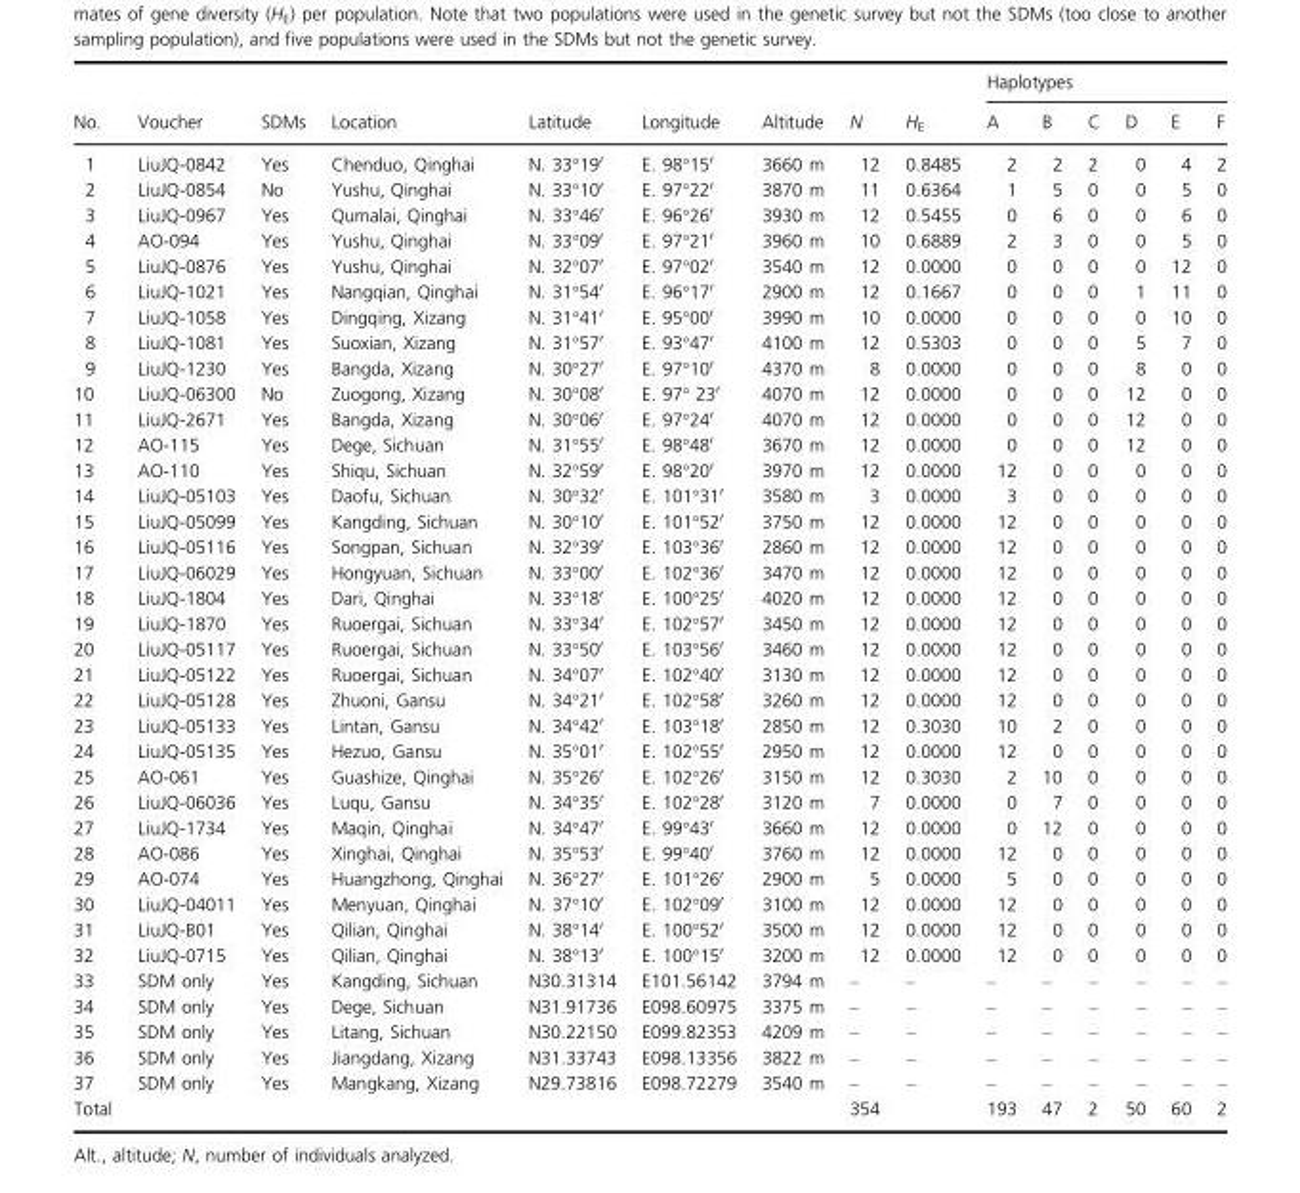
<table><thead><tr><td rowspan="2">No.</td><td rowspan="2">Voucher</td><td rowspan="2">SDMs</td><td rowspan="2">Location</td><td rowspan="2">Latitude</td><td rowspan="2">Longitude</td><td rowspan="2">Altitude</td><td rowspan="2">N</td><td rowspan="2">H<sub>E</sub></td><td colspan="6">Haplotypes</td></tr><tr><td>A</td><td>B</td><td>C</td><td>D</td><td>E</td><td>F</td></tr></thead><tbody><tr><td>1</td><td>LiuJQ-0842</td><td>Yes</td><td>Chenduo, Qinghai</td><td>N. 33°19′</td><td>E. 98°15′</td><td>3660 m</td><td>12</td><td>0.8485</td><td>2</td><td>2</td><td>2</td><td>0</td><td>4</td><td>2</td></tr><tr><td>2</td><td>LiuJQ-0854</td><td>No</td><td>Yushu, Qinghai</td><td>N. 33°10′</td><td>E. 97°22′</td><td>3870 m</td><td>11</td><td>0.6364</td><td>1</td><td>5</td><td>0</td><td>0</td><td>5</td><td>0</td></tr><tr><td>3</td><td>LiuJQ-0967</td><td>Yes</td><td>Qumalai, Qinghai</td><td>N. 33°46′</td><td>E. 96°26′</td><td>3930 m</td><td>12</td><td>0.5455</td><td>0</td><td>6</td><td>0</td><td>0</td><td>6</td><td>0</td></tr><tr><td>4</td><td>AO-094</td><td>Yes</td><td>Yushu, Qinghai</td><td>N. 33°09′</td><td>E. 97°21′</td><td>3960 m</td><td>10</td><td>0.6889</td><td>2</td><td>3</td><td>0</td><td>0</td><td>5</td><td>0</td></tr><tr><td>5</td><td>LiuJQ-0876</td><td>Yes</td><td>Yushu, Qinghai</td><td>N. 32°07′</td><td>E. 97°02′</td><td>3540 m</td><td>12</td><td>0.0000</td><td>0</td><td>0</td><td>0</td><td>0</td><td>12</td><td>0</td></tr><tr><td>6</td><td>LiuJQ-1021</td><td>Yes</td><td>Nangqian, Qinghai</td><td>N. 31°54′</td><td>E. 96°17′</td><td>2900 m</td><td>12</td><td>0.1667</td><td>0</td><td>0</td><td>0</td><td>1</td><td>11</td><td>0</td></tr><tr><td>7</td><td>LiuJQ-1058</td><td>Yes</td><td>Dingqing, Xizang</td><td>N. 31°41′</td><td>E. 95°00′</td><td>3990 m</td><td>10</td><td>0.0000</td><td>0</td><td>0</td><td>0</td><td>0</td><td>10</td><td>0</td></tr><tr><td>8</td><td>LiuJQ-1081</td><td>Yes</td><td>Suoxian, Xizang</td><td>N. 31°57′</td><td>E. 93°47′</td><td>4100 m</td><td>12</td><td>0.5303</td><td>0</td><td>0</td><td>0</td><td>5</td><td>7</td><td>0</td></tr><tr><td>9</td><td>LiuJQ-1230</td><td>Yes</td><td>Bangda, Xizang</td><td>N. 30°27′</td><td>E. 97°10′</td><td>4370 m</td><td>8</td><td>0.0000</td><td>0</td><td>0</td><td>0</td><td>8</td><td>0</td><td>0</td></tr><tr><td>10</td><td>LiuJQ-06300</td><td>No</td><td>Zuogong, Xizang</td><td>N. 30°08′</td><td>E. 97° 23′</td><td>4070 m</td><td>12</td><td>0.0000</td><td>0</td><td>0</td><td>0</td><td>12</td><td>0</td><td>0</td></tr><tr><td>11</td><td>LiuJQ-2671</td><td>Yes</td><td>Bangda, Xizang</td><td>N. 30°06′</td><td>E. 97°24′</td><td>4070 m</td><td>12</td><td>0.0000</td><td>0</td><td>0</td><td>0</td><td>12</td><td>0</td><td>0</td></tr><tr><td>12</td><td>AO-115</td><td>Yes</td><td>Dege, Sichuan</td><td>N. 31°55′</td><td>E. 98°48′</td><td>3670 m</td><td>12</td><td>0.0000</td><td>0</td><td>0</td><td>0</td><td>12</td><td>0</td><td>0</td></tr><tr><td>13</td><td>AO-110</td><td>Yes</td><td>Shiqu, Sichuan</td><td>N. 32°59′</td><td>E. 98°20′</td><td>3970 m</td><td>12</td><td>0.0000</td><td>12</td><td>0</td><td>0</td><td>0</td><td>0</td><td>0</td></tr><tr><td>14</td><td>LiuJQ-05103</td><td>Yes</td><td>Daofu, Sichuan</td><td>N. 30°32′</td><td>E. 101°31′</td><td>3580 m</td><td>3</td><td>0.0000</td><td>3</td><td>0</td><td>0</td><td>0</td><td>0</td><td>0</td></tr><tr><td>15</td><td>LiuJQ-05099</td><td>Yes</td><td>Kangding, Sichuan</td><td>N. 30°10′</td><td>E. 101°52′</td><td>3750 m</td><td>12</td><td>0.0000</td><td>12</td><td>0</td><td>0</td><td>0</td><td>0</td><td>0</td></tr><tr><td>16</td><td>LiuJQ-05116</td><td>Yes</td><td>Songpan, Sichuan</td><td>N. 32°39′</td><td>E. 103°36′</td><td>2860 m</td><td>12</td><td>0.0000</td><td>12</td><td>0</td><td>0</td><td>0</td><td>0</td><td>0</td></tr><tr><td>17</td><td>LiuJQ-06029</td><td>Yes</td><td>Hongyuan, Sichuan</td><td>N. 33°00′</td><td>E. 102°36′</td><td>3470 m</td><td>12</td><td>0.0000</td><td>12</td><td>0</td><td>0</td><td>0</td><td>0</td><td>0</td></tr><tr><td>18</td><td>LiuJQ-1804</td><td>Yes</td><td>Dari, Qinghai</td><td>N. 33°18′</td><td>E. 100°25′</td><td>4020 m</td><td>12</td><td>0.0000</td><td>12</td><td>0</td><td>0</td><td>0</td><td>0</td><td>0</td></tr><tr><td>19</td><td>LiuJQ-1870</td><td>Yes</td><td>Ruoergai, Sichuan</td><td>N. 33°34′</td><td>E. 102°57′</td><td>3450 m</td><td>12</td><td>0.0000</td><td>12</td><td>0</td><td>0</td><td>0</td><td>0</td><td>0</td></tr><tr><td>20</td><td>LiuJQ-05117</td><td>Yes</td><td>Ruoergai, Sichuan</td><td>N. 33°50′</td><td>E. 103°56′</td><td>3460 m</td><td>12</td><td>0.0000</td><td>12</td><td>0</td><td>0</td><td>0</td><td>0</td><td>0</td></tr><tr><td>21</td><td>LiuJQ-05122</td><td>Yes</td><td>Ruoergai, Sichuan</td><td>N. 34°07′</td><td>E. 102°40′</td><td>3130 m</td><td>12</td><td>0.0000</td><td>12</td><td>0</td><td>0</td><td>0</td><td>0</td><td>0</td></tr><tr><td>22</td><td>LiuJQ-05128</td><td>Yes</td><td>Zhuoni, Gansu</td><td>N. 34°21′</td><td>E. 102°58′</td><td>3260 m</td><td>12</td><td>0.0000</td><td>12</td><td>0</td><td>0</td><td>0</td><td>0</td><td>0</td></tr><tr><td>23</td><td>LiuJQ-05133</td><td>Yes</td><td>Lintan, Gansu</td><td>N. 34°42′</td><td>E. 103°18′</td><td>2850 m</td><td>12</td><td>0.3030</td><td>10</td><td>2</td><td>0</td><td>0</td><td>0</td><td>0</td></tr><tr><td>24</td><td>LiuJQ-05135</td><td>Yes</td><td>Hezuo, Gansu</td><td>N. 35°01′</td><td>E. 102°55′</td><td>2950 m</td><td>12</td><td>0.0000</td><td>12</td><td>0</td><td>0</td><td>0</td><td>0</td><td>0</td></tr><tr><td>25</td><td>AO-061</td><td>Yes</td><td>Guashize, Qinghai</td><td>N. 35°26′</td><td>E. 102°26′</td><td>3150 m</td><td>12</td><td>0.3030</td><td>2</td><td>10</td><td>0</td><td>0</td><td>0</td><td>0</td></tr><tr><td>26</td><td>LiuJQ-06036</td><td>Yes</td><td>Luqu, Gansu</td><td>N. 34°35′</td><td>E. 102°28′</td><td>3120 m</td><td>7</td><td>0.0000</td><td>0</td><td>7</td><td>0</td><td>0</td><td>0</td><td>0</td></tr><tr><td>27</td><td>LiuJQ-1734</td><td>Yes</td><td>Maqin, Qinghai</td><td>N. 34°47′</td><td>E. 99°43′</td><td>3660 m</td><td>12</td><td>0.0000</td><td>0</td><td>12</td><td>0</td><td>0</td><td>0</td><td>0</td></tr><tr><td>28</td><td>AO-086</td><td>Yes</td><td>Xinghai, Qinghai</td><td>N. 35°53′</td><td>E. 99°40′</td><td>3760 m</td><td>12</td><td>0.0000</td><td>12</td><td>0</td><td>0</td><td>0</td><td>0</td><td>0</td></tr><tr><td>29</td><td>AO-074</td><td>Yes</td><td>Huangzhong, Qinghai</td><td>N. 36°27′</td><td>E. 101°26′</td><td>2900 m</td><td>5</td><td>0.0000</td><td>5</td><td>0</td><td>0</td><td>0</td><td>0</td><td>0</td></tr><tr><td>30</td><td>LiuJQ-04011</td><td>Yes</td><td>Menyuan, Qinghai</td><td>N. 37°10′</td><td>E. 102°09′</td><td>3100 m</td><td>12</td><td>0.0000</td><td>12</td><td>0</td><td>0</td><td>0</td><td>0</td><td>0</td></tr><tr><td>31</td><td>LiuJQ-B01</td><td>Yes</td><td>Qilian, Qinghai</td><td>N. 38°14′</td><td>E. 100°52′</td><td>3500 m</td><td>12</td><td>0.0000</td><td>12</td><td>0</td><td>0</td><td>0</td><td>0</td><td>0</td></tr><tr><td>32</td><td>LiuJQ-0715</td><td>Yes</td><td>Qilian, Qinghai</td><td>N. 38°13′</td><td>E. 100°15′</td><td>3200 m</td><td>12</td><td>0.0000</td><td>12</td><td>0</td><td>0</td><td>0</td><td>0</td><td>0</td></tr><tr><td>33</td><td>SDM only</td><td>Yes</td><td>Kangding, Sichuan</td><td>N30.31314</td><td>E101.56142</td><td>3794 m</td><td>–</td><td>–</td><td>–</td><td>–</td><td>–</td><td>–</td><td>–</td><td>–</td></tr><tr><td>34</td><td>SDM only</td><td>Yes</td><td>Dege, Sichuan</td><td>N31.91736</td><td>E098.60975</td><td>3375 m</td><td>–</td><td>–</td><td>–</td><td>–</td><td>–</td><td>–</td><td>–</td><td>–</td></tr><tr><td>35</td><td>SDM only</td><td>Yes</td><td>Litang, Sichuan</td><td>N30.22150</td><td>E099.82353</td><td>4209 m</td><td>–</td><td>–</td><td>–</td><td>–</td><td>–</td><td>–</td><td>–</td><td>–</td></tr><tr><td>36</td><td>SDM only</td><td>Yes</td><td>Jiangdang, Xizang</td><td>N31.33743</td><td>E098.13356</td><td>3822 m</td><td>–</td><td>–</td><td>–</td><td>–</td><td>–</td><td>–</td><td>–</td><td>–</td></tr><tr><td>37</td><td>SDM only</td><td>Yes</td><td>Mangkang, Xizang</td><td>N29.73816</td><td>E098.72279</td><td>3540 m</td><td>–</td><td>–</td><td>–</td><td>–</td><td>–</td><td>–</td><td>–</td><td>–</td></tr><tr><td>Total</td><td></td><td></td><td></td><td></td><td></td><td></td><td>354</td><td></td><td>193</td><td>47</td><td>2</td><td>50</td><td>60</td><td>2</td></tr></tbody></table>